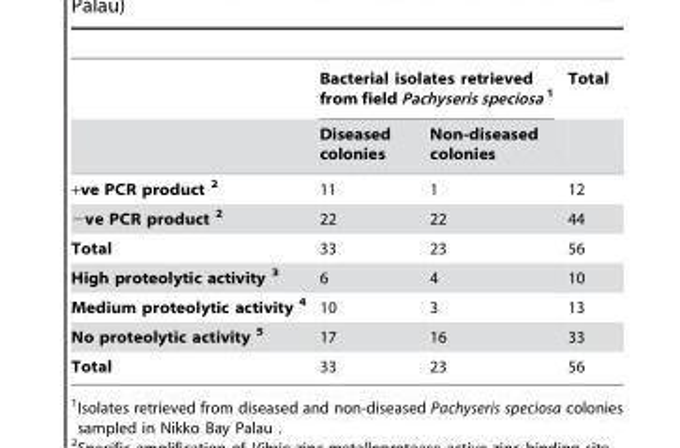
<table><thead><tr><td rowspan="2"></td><td colspan="2">Bacterial isolates retrieved from field Pachyseris speciosa 1</td><td rowspan="2">Total</td></tr><tr><td>Diseased colonies</td><td>Non-diseased colonies</td></tr></thead><tbody><tr><td>+ve PCR product 2</td><td>11</td><td>1</td><td>12</td></tr><tr><td>−ve PCR product 2</td><td>22</td><td>22</td><td>44</td></tr><tr><td>Total</td><td>33</td><td>23</td><td>56</td></tr><tr><td>High proteolytic activity 3</td><td>6</td><td>4</td><td>10</td></tr><tr><td>Medium proteolytic activity 4</td><td>10</td><td>3</td><td>13</td></tr><tr><td>No proteolytic activity 5</td><td>17</td><td>16</td><td>33</td></tr><tr><td>Total</td><td>33</td><td>23</td><td>56</td></tr></tbody></table>